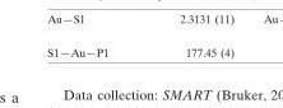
<table><tbody><tr><td>S1—Au—P1</td><td>177.45 (4)</td></tr></tbody></table>